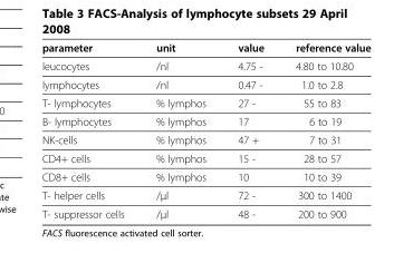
<table><thead><tr><td>parameter</td><td>unit</td><td>value</td><td>reference value</td></tr></thead><tbody><tr><td>leucocytes</td><td>/nl</td><td>4.75 -</td><td>4.80 to 10.80</td></tr><tr><td>lymphocytes</td><td>/nl</td><td>0.47 -</td><td>1.0 to 2.8</td></tr><tr><td>T- lymphocytes</td><td>% lymphos</td><td>27 -</td><td>55 to 83</td></tr><tr><td>B- lymphocytes</td><td>% lymphos</td><td>17</td><td>6 to 19</td></tr><tr><td>NK-cells</td><td>% lymphos</td><td>47 +</td><td>7 to 31</td></tr><tr><td>CD4+ cells</td><td>% lymphos</td><td>15 -</td><td>28 to 57</td></tr><tr><td>CD8+ cells</td><td>% lymphos</td><td>10</td><td>10 to 39</td></tr><tr><td>T- helper cells</td><td>/μl</td><td>72 -</td><td>300 to 1400</td></tr><tr><td>T- suppressor cells</td><td>/μl</td><td>48 -</td><td>200 to 900</td></tr></tbody></table>